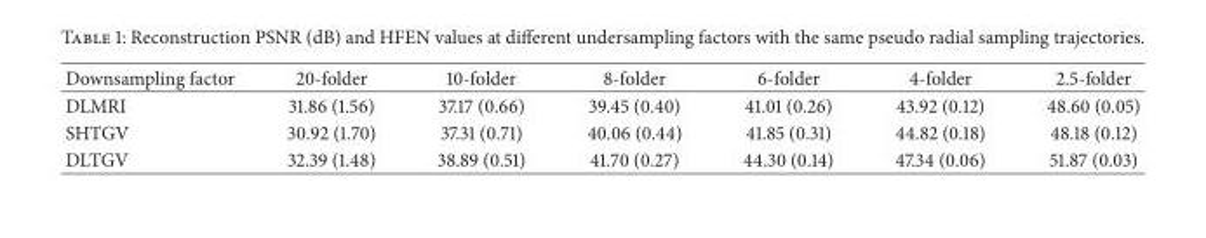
<table><thead><tr><td>Downsampling factor</td><td>20-folder</td><td>10-folder</td><td>8-folder</td><td>6-folder</td><td>4-folder</td><td>2.5-folder</td></tr></thead><tbody><tr><td>DLMRI</td><td>31.86 (1.56)</td><td>37.17 (0.66)</td><td>39.45 (0.40)</td><td>41.01 (0.26)</td><td>43.92 (0.12)</td><td>48.60 (0.05)</td></tr><tr><td>SHTGV</td><td>30.92 (1.70)</td><td>37.31 (0.71)</td><td>40.06 (0.44)</td><td>41.85 (0.31)</td><td>44.82 (0.18)</td><td>48.18 (0.12)</td></tr><tr><td>DLTGV</td><td>32.39 (1.48)</td><td>38.89 (0.51)</td><td>41.70 (0.27)</td><td>44.30 (0.14)</td><td>47.34 (0.06)</td><td>51.87 (0.03)</td></tr></tbody></table>